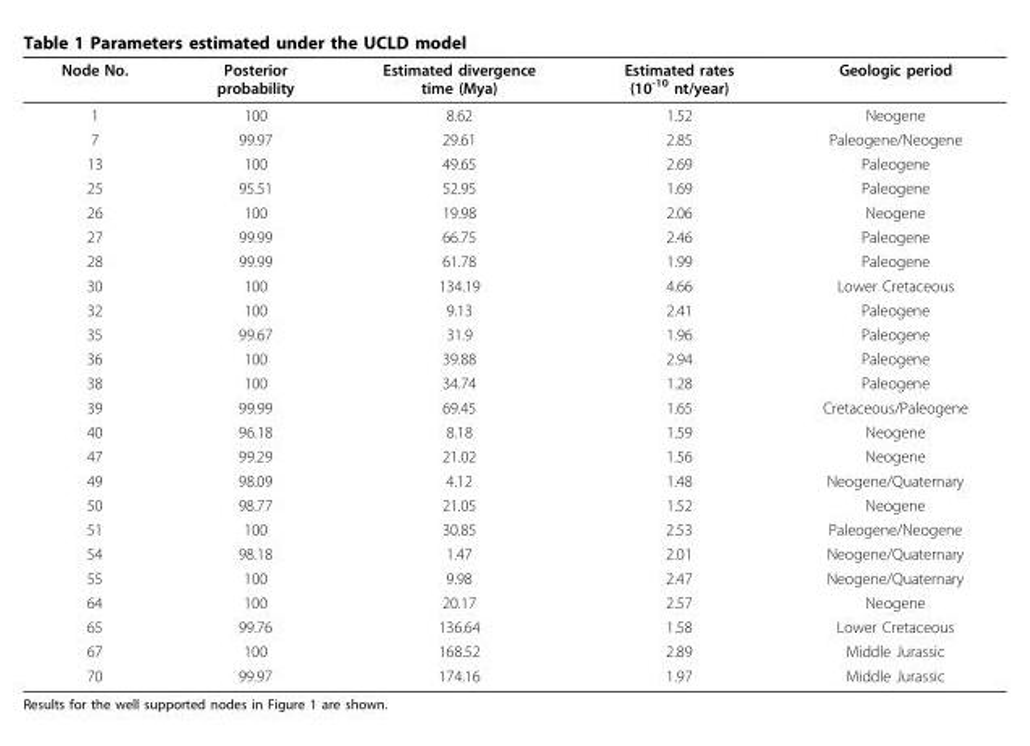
<table><thead><tr><td>Node No.</td><td>Posterior probability</td><td>Estimated divergence time (Mya)</td><td>Estimated rates (10<sup>-10</sup> nt/year)</td><td>Geologic period</td></tr></thead><tbody><tr><td>1</td><td>100</td><td>8.62</td><td>1.52</td><td>Neogene</td></tr><tr><td>7</td><td>99.97</td><td>29.61</td><td>2.85</td><td>Paleogene/Neogene</td></tr><tr><td>13</td><td>100</td><td>49.65</td><td>2.69</td><td>Paleogene</td></tr><tr><td>25</td><td>95.51</td><td>52.95</td><td>1.69</td><td>Paleogene</td></tr><tr><td>26</td><td>100</td><td>19.98</td><td>2.06</td><td>Neogene</td></tr><tr><td>27</td><td>99.99</td><td>66.75</td><td>2.46</td><td>Paleogene</td></tr><tr><td>28</td><td>99.99</td><td>61.78</td><td>1.99</td><td>Paleogene</td></tr><tr><td>30</td><td>100</td><td>134.19</td><td>4.66</td><td>Lower Cretaceous</td></tr><tr><td>32</td><td>100</td><td>9.13</td><td>2.41</td><td>Paleogene</td></tr><tr><td>35</td><td>99.67</td><td>31.9</td><td>1.96</td><td>Paleogene</td></tr><tr><td>36</td><td>100</td><td>39.88</td><td>2.94</td><td>Paleogene</td></tr><tr><td>38</td><td>100</td><td>34.74</td><td>1.28</td><td>Paleogene</td></tr><tr><td>39</td><td>99.99</td><td>69.45</td><td>1.65</td><td>Cretaceous/Paleogene</td></tr><tr><td>40</td><td>96.18</td><td>8.18</td><td>1.59</td><td>Neogene</td></tr><tr><td>47</td><td>99.29</td><td>21.02</td><td>1.56</td><td>Neogene</td></tr><tr><td>49</td><td>98.09</td><td>4.12</td><td>1.48</td><td>Neogene/Quaternary</td></tr><tr><td>50</td><td>98.77</td><td>21.05</td><td>1.52</td><td>Neogene</td></tr><tr><td>51</td><td>100</td><td>30.85</td><td>2.53</td><td>Paleogene/Neogene</td></tr><tr><td>54</td><td>98.18</td><td>1.47</td><td>2.01</td><td>Neogene/Quaternary</td></tr><tr><td>55</td><td>100</td><td>9.98</td><td>2.47</td><td>Neogene/Quaternary</td></tr><tr><td>64</td><td>100</td><td>20.17</td><td>2.57</td><td>Neogene</td></tr><tr><td>65</td><td>99.76</td><td>136.64</td><td>1.58</td><td>Lower Cretaceous</td></tr><tr><td>67</td><td>100</td><td>168.52</td><td>2.89</td><td>Middle Jurassic</td></tr><tr><td>70</td><td>99.97</td><td>174.16</td><td>1.97</td><td>Middle Jurassic</td></tr></tbody></table>